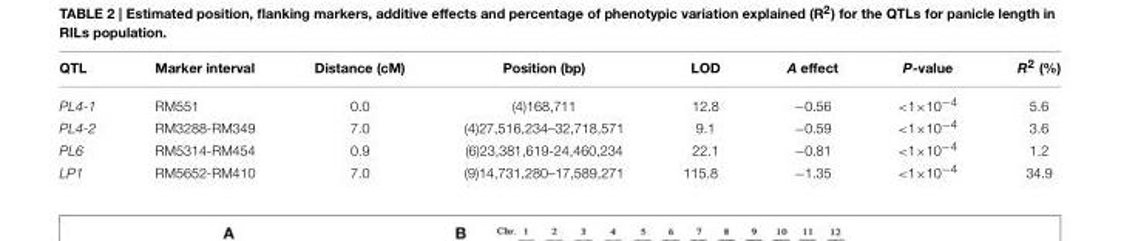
<table><thead><tr><td>QTL</td><td>Marker interval</td><td>Distance (cM)</td><td>Position (bp)</td><td>LOD</td><td>A effect</td><td>P-value</td><td>R<sup>2</sup> (%)</td></tr></thead><tbody><tr><td>PL4-1</td><td>RM551</td><td>0.0</td><td>(4)168,711</td><td>12.8</td><td>−0.56</td><td>&lt;1×10<sup>−4</sup></td><td>5.6</td></tr><tr><td>PL4-2</td><td>RM3288-RM349</td><td>7.0</td><td>(4)27,516,234–32,718,571</td><td>9.1</td><td>−0.59</td><td>&lt;1×10<sup>−4</sup></td><td>3.6</td></tr><tr><td>PL6</td><td>RM5314-RM454</td><td>0.9</td><td>(6)23,381,619-24,460,234</td><td>22.1</td><td>−0.81</td><td>&lt;1×10<sup>−4</sup></td><td>1.2</td></tr><tr><td>LP1</td><td>RM5652-RM410</td><td>7.0</td><td>(9)14,731,280–17,589,271</td><td>115.8</td><td>−1.35</td><td>&lt;1×10<sup>−4</sup></td><td>34.9</td></tr></tbody></table>